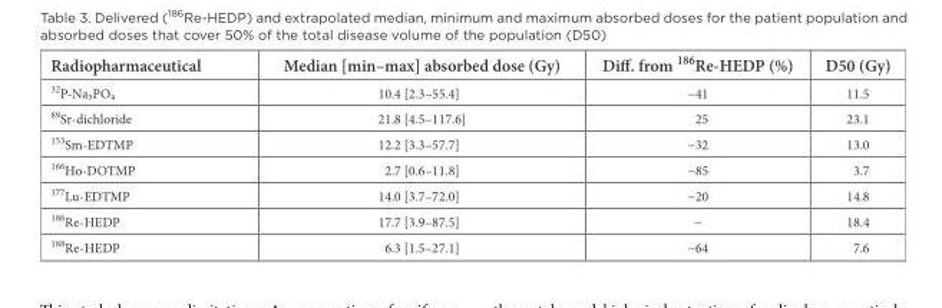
<table><thead><tr><td>Radiopharmaceutical</td><td>Median [min–max] absorbed dose (Gy)</td><td>Diff. from <sup>186</sup>Re-HEDP (%)</td><td>D50 (Gy)</td></tr></thead><tbody><tr><td><sup>32</sup>P-Na₃PO₄</td><td>10.4 [2.3–55.4]</td><td>−41</td><td>11.5</td></tr><tr><td><sup>89</sup>Sr-dichloride</td><td>21.8 [4.5–117.6]</td><td>25</td><td>23.1</td></tr><tr><td><sup>153</sup>Sm-EDTMP</td><td>12.2 [3.3–57.7]</td><td>−32</td><td>13.0</td></tr><tr><td><sup>166</sup>Ho-DOTMP</td><td>2.7 [0.6–11.8]</td><td>−85</td><td>3.7</td></tr><tr><td><sup>177</sup>Lu-EDTMP</td><td>14.0 [3.7–72.0]</td><td>−20</td><td>14.8</td></tr><tr><td><sup>186</sup>Re-HEDP</td><td>17.7 [3.9–87.5]</td><td>−</td><td>18.4</td></tr><tr><td><sup>188</sup>Re-HEDP</td><td>6.3 [1.5–27.1]</td><td>−64</td><td>7.6</td></tr></tbody></table>